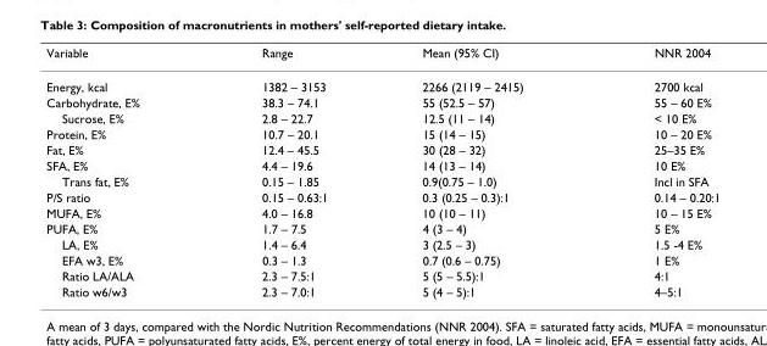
<table><thead><tr><td>Variable</td><td>Range</td><td>Mean (95% CI)</td><td>NNR 2004</td></tr></thead><tbody><tr><td>Energy, kcal</td><td>1382 – 3153</td><td>2266 (2119 – 2415)</td><td>2700 kcal</td></tr><tr><td>Carbohydrate, E%</td><td>38.3 – 74.1</td><td>55 (52.5 – 57)</td><td>55 – 60 E%</td></tr><tr><td>Sucrose, E%</td><td>2.8 – 22.7</td><td>12.5 (11 – 14)</td><td>&lt; 10 E%</td></tr><tr><td>Protein, E%</td><td>10.7 – 20.1</td><td>15 (14 – 15)</td><td>10 – 20 E%</td></tr><tr><td>Fat, E%</td><td>12.4 – 45.5</td><td>30 (28 – 32)</td><td>25–35 E%</td></tr><tr><td>SFA, E%</td><td>4.4 – 19.6</td><td>14 (13 – 14)</td><td>10 E%</td></tr><tr><td>Trans fat, E%</td><td>0.15 – 1.85</td><td>0.9(0.75 – 1.0)</td><td>Incl in SFA</td></tr><tr><td>P/S ratio</td><td>0.15 – 0.63:1</td><td>0.3 (0.25 – 0.3):1</td><td>0.14 – 0.20:1</td></tr><tr><td>MUFA, E%</td><td>4.0 – 16.8</td><td>10 (10 – 11)</td><td>10 – 15 E%</td></tr><tr><td>PUFA, E%</td><td>1.7 – 7.5</td><td>4 (3 – 4)</td><td>5 E%</td></tr><tr><td>LA, E%</td><td>1.4 – 6.4</td><td>3 (2.5 – 3)</td><td>1.5 -4 E%</td></tr><tr><td>EFA w3, E%</td><td>0.3 – 1.3</td><td>0.7 (0.6 – 0.75)</td><td>1 E%</td></tr><tr><td>Ratio LA/ALA</td><td>2.3 – 7.5:1</td><td>5 (5 – 5.5):1</td><td>4:1</td></tr><tr><td>Ratio w6/w3</td><td>2.3 – 7.0:1</td><td>5 (4 – 5):1</td><td>4–5:1</td></tr></tbody></table>